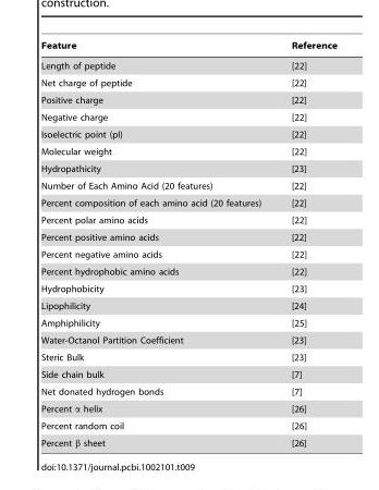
<table><thead><tr><td>Feature</td><td>Reference</td></tr></thead><tbody><tr><td>Length of peptide</td><td>[22]</td></tr><tr><td>Net charge of peptide</td><td>[22]</td></tr><tr><td>Positive charge</td><td>[22]</td></tr><tr><td>Negative charge</td><td>[22]</td></tr><tr><td>Isoelectric point (pI)</td><td>[22]</td></tr><tr><td>Molecular weight</td><td>[22]</td></tr><tr><td>Hydropathicity</td><td>[23]</td></tr><tr><td>Number of Each Amino Acid (20 features)</td><td>[22]</td></tr><tr><td>Percent composition of each amino acid (20 features)</td><td>[22]</td></tr><tr><td>Percent polar amino acids</td><td>[22]</td></tr><tr><td>Percent positive amino acids</td><td>[22]</td></tr><tr><td>Percent negative amino acids</td><td>[22]</td></tr><tr><td>Percent hydrophobic amino acids</td><td>[22]</td></tr><tr><td>Hydrophobicity</td><td>[23]</td></tr><tr><td>Lipophilicity</td><td>[24]</td></tr><tr><td>Amphiphilicity</td><td>[25]</td></tr><tr><td>Water-Octanol Partition Coefficient</td><td>[23]</td></tr><tr><td>Steric Bulk</td><td>[23]</td></tr><tr><td>Side chain bulk</td><td>[7]</td></tr><tr><td>Net donated hydrogen bonds</td><td>[7]</td></tr><tr><td>Percent α helix</td><td>[26]</td></tr><tr><td>Percent random coil</td><td>[26]</td></tr><tr><td>Percent β sheet</td><td>[26]</td></tr></tbody></table>